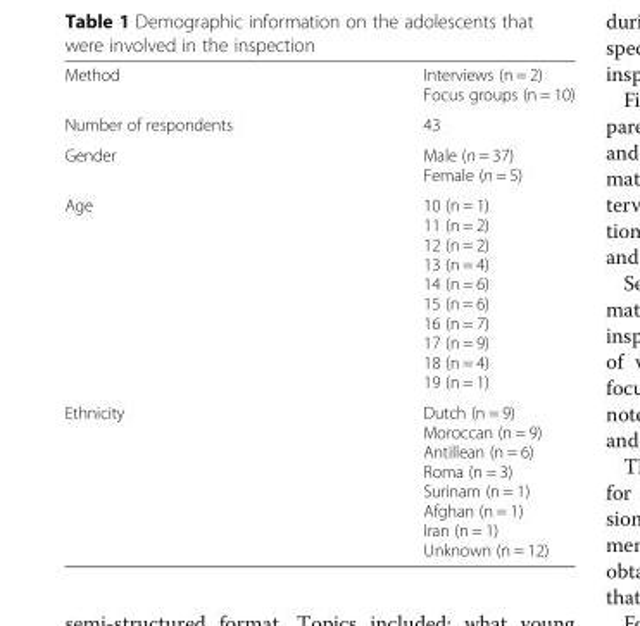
<table><tbody><tr><td>Method</td><td>Interviews (n = 2) Focus groups (n = 10)</td></tr><tr><td>Number of respondents</td><td>43</td></tr><tr><td>Gender</td><td>Male (n = 37) Female (n = 5)</td></tr><tr><td>Age</td><td>10 (n = 1) 11 (n = 2) 12 (n = 2) 13 (n = 4) 14 (n = 6) 15 (n = 6) 16 (n = 7) 17 (n = 9) 18 (n = 4) 19 (n = 1)</td></tr><tr><td>Ethnicity</td><td>Dutch (n = 9) Moroccan (n = 9) Antillean (n = 6) Roma (n = 3) Surinam (n = 1) Afghan (n = 1) Iran (n = 1) Unknown (n = 12)</td></tr></tbody></table>